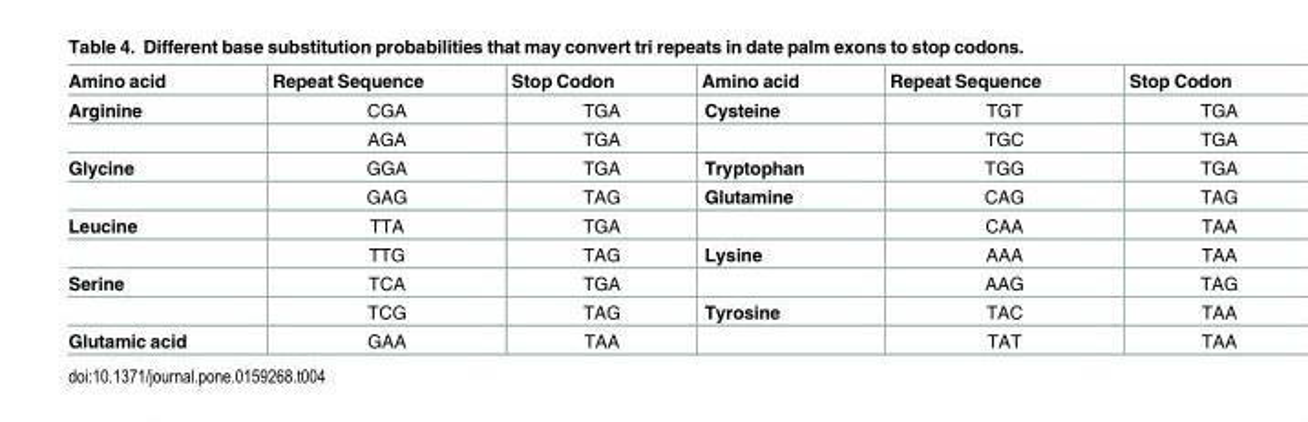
<table><thead><tr><td>Amino acid</td><td>Repeat Sequence</td><td>Stop Codon</td><td>Amino acid</td><td>Repeat Sequence</td><td>Stop Codon</td></tr></thead><tbody><tr><td rowspan="2">Arginine</td><td>CGA</td><td>TGA</td><td>Cysteine</td><td>TGT</td><td>TGA</td></tr><tr><td>AGA</td><td>TGA</td><td></td><td>TGC</td><td>TGA</td></tr><tr><td rowspan="2">Glycine</td><td>GGA</td><td>TGA</td><td>Tryptophan</td><td>TGG</td><td>TGA</td></tr><tr><td>GAG</td><td>TAG</td><td>Glutamine</td><td>CAG</td><td>TAG</td></tr><tr><td rowspan="2">Leucine</td><td>TTA</td><td>TGA</td><td></td><td>CAA</td><td>TAA</td></tr><tr><td>TTG</td><td>TAG</td><td>Lysine</td><td>AAA</td><td>TAA</td></tr><tr><td rowspan="2">Serine</td><td>TCA</td><td>TGA</td><td></td><td>AAG</td><td>TAG</td></tr><tr><td>TCG</td><td>TAG</td><td>Tyrosine</td><td>TAC</td><td>TAA</td></tr><tr><td>Glutamic acid</td><td>GAA</td><td>TAA</td><td></td><td>TAT</td><td>TAA</td></tr></tbody></table>